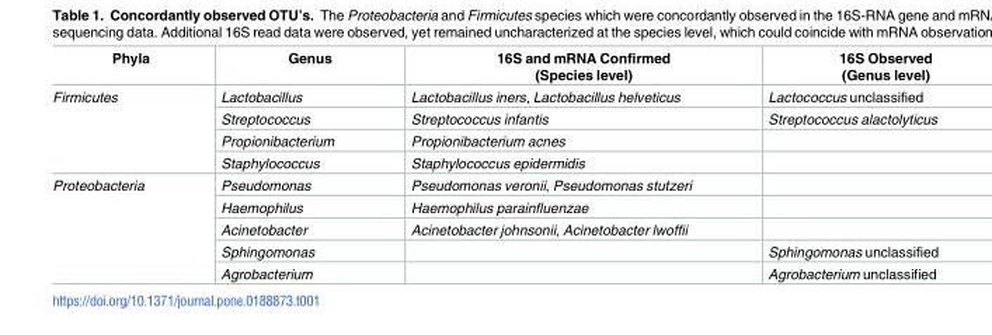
<table><thead><tr><td>Phyla</td><td>Genus</td><td>16S and mRNA Confirmed (Species level)</td><td>16S Observed (Genus level)</td></tr></thead><tbody><tr><td rowspan="4">Firmicutes</td><td>Lactobacillus</td><td>Lactobacillus iners, Lactobacillus helveticus</td><td>Lactococcus unclassified</td></tr><tr><td>Streptococcus</td><td>Streptococcus infantis</td><td>Streptococcus alactolyticus</td></tr><tr><td>Propionibacterium</td><td>Propionibacterium acnes</td><td></td></tr><tr><td>Staphylococcus</td><td>Staphylococcus epidermidis</td><td></td></tr><tr><td rowspan="5">Proteobacteria</td><td>Pseudomonas</td><td>Pseudomonas veronii, Pseudomonas stutzeri</td><td></td></tr><tr><td>Haemophilus</td><td>Haemophilus parainfluenzae</td><td></td></tr><tr><td>Acinetobacter</td><td>Acinetobacter johnsonii, Acinetobacter lwoffii</td><td></td></tr><tr><td>Sphingomonas</td><td></td><td>Sphingomonas unclassified</td></tr><tr><td>Agrobacterium</td><td></td><td>Agrobacterium unclassified</td></tr></tbody></table>